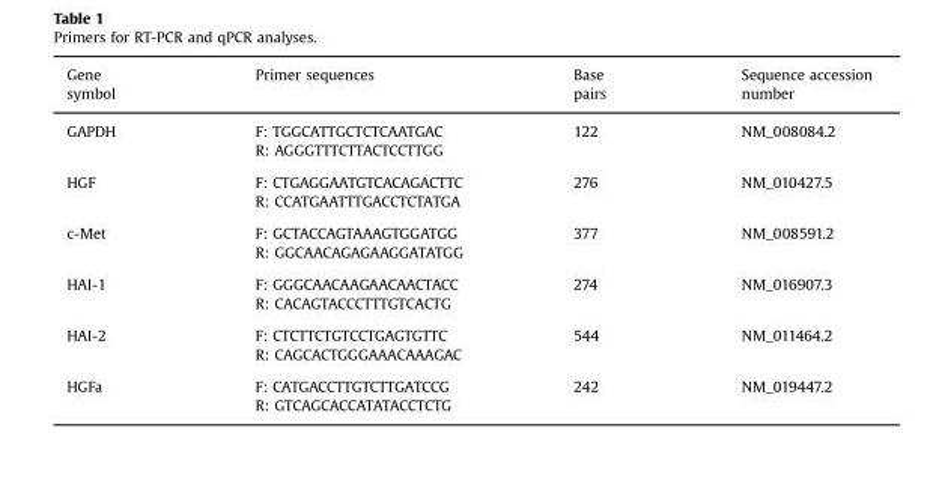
<table><thead><tr><td>Gene symbol</td><td>Primer sequences</td><td>Base pairs</td><td>Sequence accession number</td></tr></thead><tbody><tr><td rowspan="2">GAPDH</td><td>F: TGGCATTGCTCTCAATGAC</td><td>122</td><td>NM_008084.2</td></tr><tr><td>R: AGGGTTTCTTACTCCTTGG</td><td></td><td></td></tr><tr><td rowspan="2">HGF</td><td>F: CTGAGGAATGTCACAGACTTC</td><td>276</td><td>NM_010427.5</td></tr><tr><td>R: CCATGAATTTGACCTCTATGA</td><td></td><td></td></tr><tr><td rowspan="2">c-Met</td><td>F: GCTACCAGTAAAGTGGATGG</td><td>377</td><td>NM_008591.2</td></tr><tr><td>R: GGCAACAGAGAAGGATATGG</td><td></td><td></td></tr><tr><td rowspan="2">HAI-1</td><td>F: GGGCAACAAGAACAACTACC</td><td>274</td><td>NM_016907.3</td></tr><tr><td>R: CACAGTACCCTTTGTCACTG</td><td></td><td></td></tr><tr><td rowspan="2">HAI-2</td><td>F: CTCTTCTGTCCTGAGTGTTC</td><td>544</td><td>NM_011464.2</td></tr><tr><td>R: CAGCACTGGGAAACAAAGAC</td><td></td><td></td></tr><tr><td rowspan="2">HGFa</td><td>F: CATGACCTTGTCTTGATCCG</td><td>242</td><td>NM_019447.2</td></tr><tr><td>R: GTCAGCACCATATACCTCTG</td><td></td><td></td></tr></tbody></table>